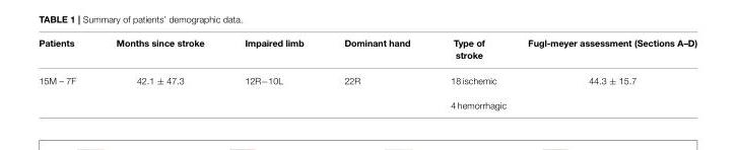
<table><thead><tr><td>Patients</td><td>Months since stroke</td><td>Impaired limb</td><td>Dominant hand</td><td>Type of stroke</td><td>Fugl-meyer assessment (Sections A–D)</td></tr></thead><tbody><tr><td>15M – 7F</td><td>42.1 ± 47.3</td><td>12R−10L</td><td>22R</td><td>18 ischemic 4 hemorrhagic</td><td>44.3 ± 15.7</td></tr></tbody></table>